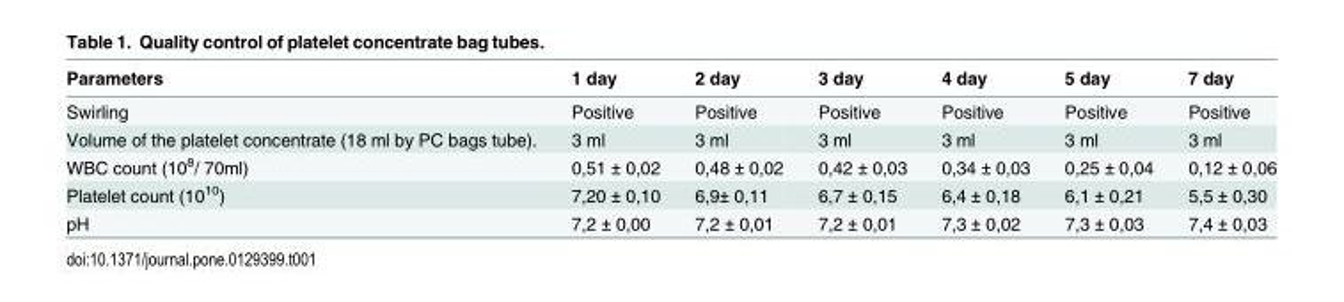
<table><thead><tr><td>Parameters</td><td>1 day</td><td>2 day</td><td>3 day</td><td>4 day</td><td>5 day</td><td>7 day</td></tr></thead><tbody><tr><td>Swirling</td><td>Positive</td><td>Positive</td><td>Positive</td><td>Positive</td><td>Positive</td><td>Positive</td></tr><tr><td>Volume of the platelet concentrate (18 ml by PC bags tube).</td><td>3 ml</td><td>3 ml</td><td>3 ml</td><td>3 ml</td><td>3 ml</td><td>3 ml</td></tr><tr><td>WBC count (10<sup>8</sup>/ 70ml)</td><td>0,51 ± 0,02</td><td>0,48 ± 0,02</td><td>0,42 ± 0,03</td><td>0,34 ± 0,03</td><td>0,25 ± 0,04</td><td>0,12 ± 0,06</td></tr><tr><td>Platelet count (10<sup>10</sup>)</td><td>7,20 ± 0,10</td><td>6,9± 0,11</td><td>6,7 ± 0,15</td><td>6,4 ± 0,18</td><td>6,1 ± 0,21</td><td>5,5 ± 0,30</td></tr><tr><td>pH</td><td>7,2 ± 0,00</td><td>7,2 ± 0,01</td><td>7,2 ± 0,01</td><td>7,3 ± 0,02</td><td>7,3 ± 0,03</td><td>7,4 ± 0,03</td></tr></tbody></table>